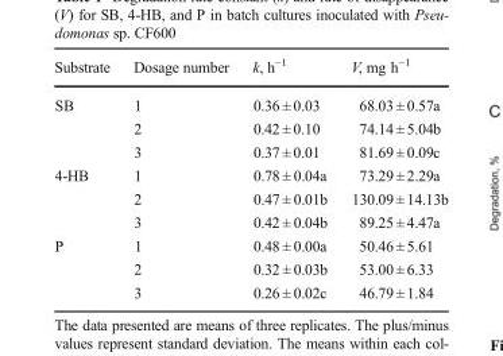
<table><thead><tr><td>Substrate</td><td>Dosage number</td><td>k, h<sup>−1</sup></td><td>V, mg h<sup>−1</sup></td></tr></thead><tbody><tr><td rowspan="3">SB</td><td>1</td><td>0.36 ± 0.03</td><td>68.03 ± 0.57a</td></tr><tr><td>2</td><td>0.42 ± 0.10</td><td>74.14 ± 5.04b</td></tr><tr><td>3</td><td>0.37 ± 0.01</td><td>81.69 ± 0.09c</td></tr><tr><td rowspan="3">4-HB</td><td>1</td><td>0.78 ± 0.04a</td><td>73.29 ± 2.29a</td></tr><tr><td>2</td><td>0.47 ± 0.01b</td><td>130.09 ± 14.13b</td></tr><tr><td>3</td><td>0.42 ± 0.04b</td><td>89.25 ± 4.47a</td></tr><tr><td rowspan="3">P</td><td>1</td><td>0.48 ± 0.00a</td><td>50.46 ± 5.61</td></tr><tr><td>2</td><td>0.32 ± 0.03b</td><td>53.00 ± 6.33</td></tr><tr><td>3</td><td>0.26 ± 0.02c</td><td>46.79 ± 1.84</td></tr></tbody></table>